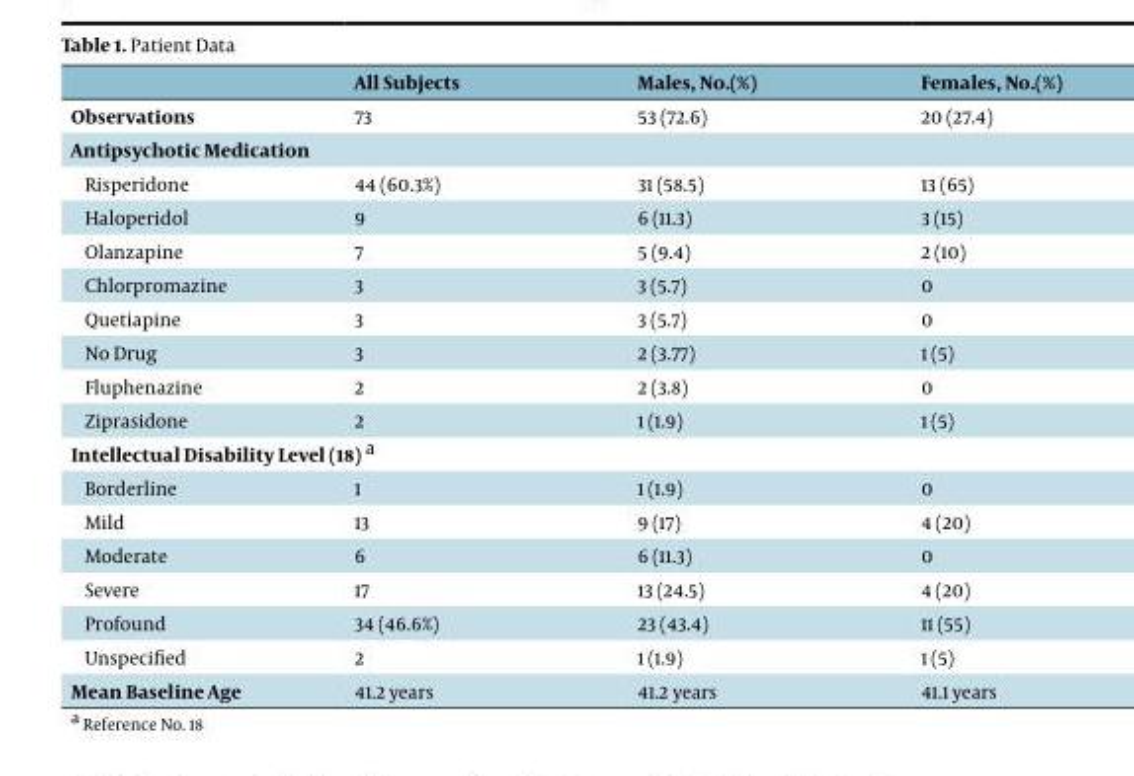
<table><thead><tr><td></td><td>All Subjects</td><td>Males, No.(%)</td><td>Females, No.(%)</td></tr></thead><tbody><tr><td>Observations</td><td>73</td><td>53 (72.6)</td><td>20 (27.4)</td></tr><tr><td colspan="4">Antipsychotic Medication</td></tr><tr><td>Risperidone</td><td>44 (60.3%)</td><td>31 (58.5)</td><td>13 (65)</td></tr><tr><td>Haloperidol</td><td>9</td><td>6 (11.3)</td><td>3 (15)</td></tr><tr><td>Olanzapine</td><td>7</td><td>5 (9.4)</td><td>2 (10)</td></tr><tr><td>Chlorpromazine</td><td>3</td><td>3 (5.7)</td><td>0</td></tr><tr><td>Quetiapine</td><td>3</td><td>3 (5.7)</td><td>0</td></tr><tr><td>No Drug</td><td>3</td><td>2 (3.77)</td><td>1 (5)</td></tr><tr><td>Fluphenazine</td><td>2</td><td>2 (3.8)</td><td>0</td></tr><tr><td>Ziprasidone</td><td>2</td><td>1 (1.9)</td><td>1 (5)</td></tr><tr><td colspan="4">Intellectual Disability Level (18) <sup>a</sup></td></tr><tr><td>Borderline</td><td>1</td><td>1 (1.9)</td><td>0</td></tr><tr><td>Mild</td><td>13</td><td>9 (17)</td><td>4 (20)</td></tr><tr><td>Moderate</td><td>6</td><td>6 (11.3)</td><td>0</td></tr><tr><td>Severe</td><td>17</td><td>13 (24.5)</td><td>4 (20)</td></tr><tr><td>Profound</td><td>34 (46.6%)</td><td>23 (43.4)</td><td>11 (55)</td></tr><tr><td>Unspecified</td><td>2</td><td>1 (1.9)</td><td>1 (5)</td></tr><tr><td>Mean Baseline Age</td><td>41.2 years</td><td>41.2 years</td><td>41.1 years</td></tr></tbody></table>